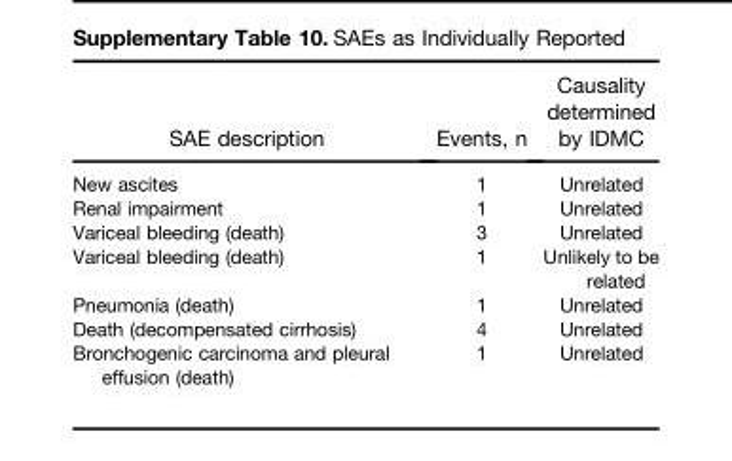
<table><thead><tr><td>SAE description</td><td>Events, n</td><td>Causality determined by IDMC</td></tr></thead><tbody><tr><td>New ascites</td><td>1</td><td>Unrelated</td></tr><tr><td>Renal impairment</td><td>1</td><td>Unrelated</td></tr><tr><td>Variceal bleeding (death)</td><td>3</td><td>Unrelated</td></tr><tr><td>Variceal bleeding (death)</td><td>1</td><td>Unlikely to be related</td></tr><tr><td>Pneumonia (death)</td><td>1</td><td>Unrelated</td></tr><tr><td>Death (decompensated cirrhosis)</td><td>4</td><td>Unrelated</td></tr><tr><td>Bronchogenic carcinoma and pleural effusion (death)</td><td>1</td><td>Unrelated</td></tr></tbody></table>